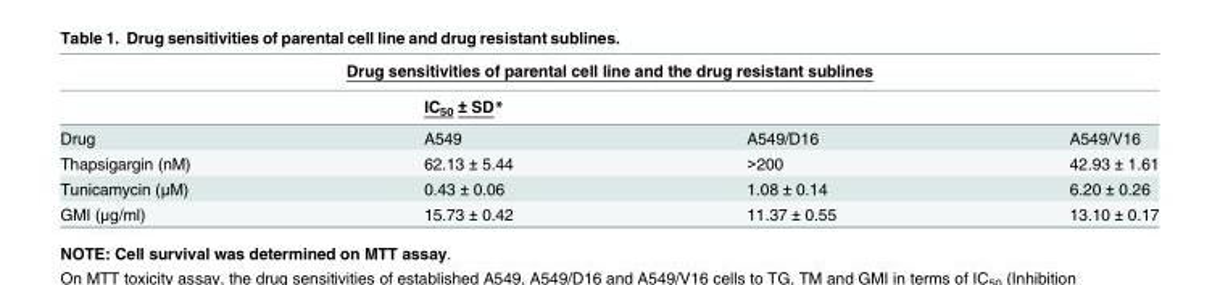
<table><thead><tr><td colspan="4">Drug sensitivities of parental cell line and the drug resistant sublines</td></tr><tr><td></td><td>IC<sub>50</sub> ± SD*</td><td></td><td></td></tr></thead><tbody><tr><td>Drug</td><td>A549</td><td>A549/D16</td><td>A549/V16</td></tr><tr><td>Thapsigargin (nM)</td><td>62.13 ± 5.44</td><td>&gt;200</td><td>42.93 ± 1.61</td></tr><tr><td>Tunicamycin (μM)</td><td>0.43 ± 0.06</td><td>1.08 ± 0.14</td><td>6.20 ± 0.26</td></tr><tr><td>GMI (μg/ml)</td><td>15.73 ± 0.42</td><td>11.37 ± 0.55</td><td>13.10 ± 0.17</td></tr></tbody></table>